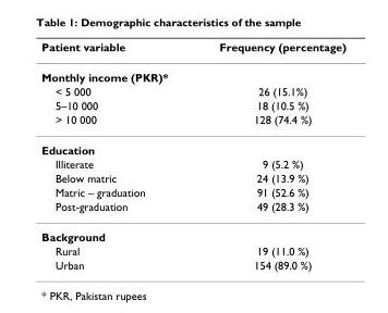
<table><thead><tr><td>Patient variable</td><td>Frequency (percentage)</td></tr></thead><tbody><tr><td colspan="2">Monthly income (PKR)*</td></tr><tr><td>&lt; 5 000</td><td>26 (15.1%)</td></tr><tr><td>5–10 000</td><td>18 (10.5 %)</td></tr><tr><td>&gt; 10 000</td><td>128 (74.4 %)</td></tr><tr><td colspan="2">Education</td></tr><tr><td>Illiterate</td><td>9 (5.2 %)</td></tr><tr><td>Below matric</td><td>24 (13.9 %)</td></tr><tr><td>Matric – graduation</td><td>91 (52.6 %)</td></tr><tr><td>Post-graduation</td><td>49 (28.3 %)</td></tr><tr><td colspan="2">Background</td></tr><tr><td>Rural</td><td>19 (11.0 %)</td></tr><tr><td>Urban</td><td>154 (89.0 %)</td></tr></tbody></table>